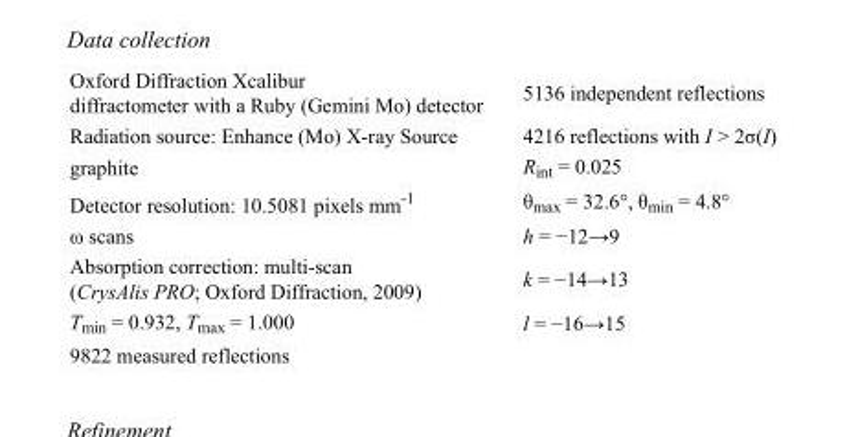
<table><tbody><tr><td>Oxford Diffraction Xcalibur diffractometer with a Ruby (Gemini Mo) detector</td><td>5136 independent reflections</td></tr><tr><td>Radiation source: Enhance (Mo) X-ray Source</td><td>4216 reflections with I &gt; 2σ(I)</td></tr><tr><td>graphite</td><td>R<sub>int</sub> = 0.025</td></tr><tr><td>Detector resolution: 10.5081 pixels mm<sup>-1</sup></td><td>θ<sub>max</sub> = 32.6°, θ<sub>min</sub> = 4.8°</td></tr><tr><td>ω scans</td><td>h = −12→9</td></tr><tr><td>Absorption correction: multi-scan (CrysAlis PRO; Oxford Diffraction, 2009)</td><td>k = −14→13</td></tr><tr><td>T<sub>min</sub> = 0.932, T<sub>max</sub> = 1.000</td><td>l = −16→15</td></tr><tr><td>9822 measured reflections</td><td></td></tr></tbody></table>